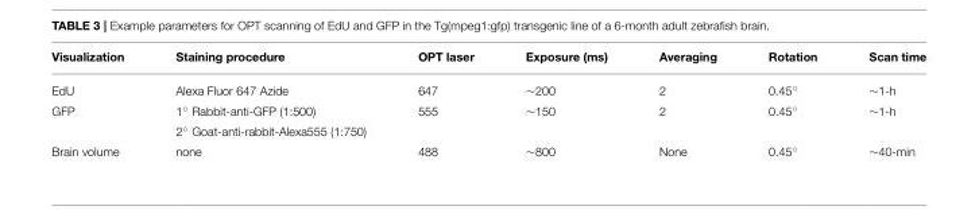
<table><thead><tr><td>Visualization</td><td>Staining procedure</td><td>OPT laser</td><td>Exposure (ms)</td><td>Averaging</td><td>Rotation</td><td>Scan time</td></tr></thead><tbody><tr><td>EdU</td><td>Alexa Fluor 647 Azide</td><td>647</td><td>∼200</td><td>2</td><td>0.45◦</td><td>∼1-h</td></tr><tr><td rowspan="2">GFP</td><td>1◦ Rabbit-anti-GFP (1:500)</td><td>555</td><td>∼150</td><td>2</td><td>0.45◦</td><td>∼1-h</td></tr><tr><td>2◦ Goat-anti-rabbit-Alexa555 (1:750)</td><td></td><td></td><td></td><td></td><td></td></tr><tr><td>Brain volume</td><td>none</td><td>488</td><td>∼800</td><td>None</td><td>0.45◦</td><td>∼40-min</td></tr></tbody></table>